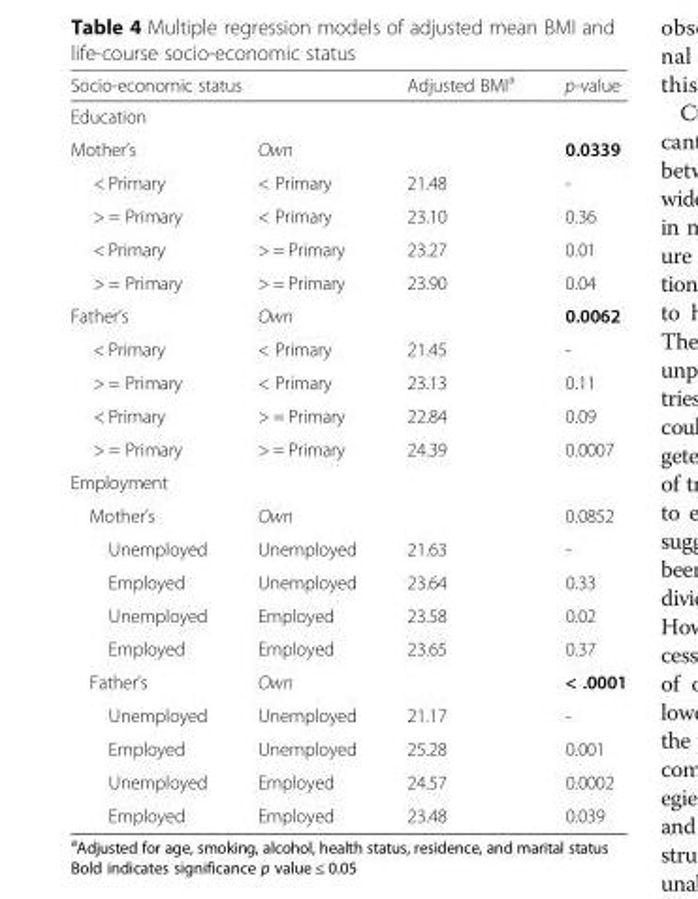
<table><thead><tr><td colspan="2">Socio-economic status</td><td>Adjusted BMI<sup>a</sup></td><td>p-value</td></tr><tr><td colspan="4">Education</td></tr><tr><td>Mother’s</td><td>Own</td><td></td><td>0.0339</td></tr></thead><tbody><tr><td>&lt; Primary</td><td>&lt; Primary</td><td>21.48</td><td>-</td></tr><tr><td>&gt; = Primary</td><td>&lt; Primary</td><td>23.10</td><td>0.36</td></tr><tr><td>&lt; Primary</td><td>&gt; = Primary</td><td>23.27</td><td>0.01</td></tr><tr><td>&gt; = Primary</td><td>&gt; = Primary</td><td>23.90</td><td>0.04</td></tr><tr><td>Father’s</td><td>Own</td><td></td><td>0.0062</td></tr><tr><td>&lt; Primary</td><td>&lt; Primary</td><td>21.45</td><td>-</td></tr><tr><td>&gt; = Primary</td><td>&lt; Primary</td><td>23.13</td><td>0.11</td></tr><tr><td>&lt; Primary</td><td>&gt; = Primary</td><td>22.84</td><td>0.09</td></tr><tr><td>&gt; = Primary</td><td>&gt; = Primary</td><td>24.39</td><td>0.0007</td></tr><tr><td colspan="4">Employment</td></tr><tr><td>Mother’s</td><td>Own</td><td></td><td>0.0852</td></tr><tr><td>Unemployed</td><td>Unemployed</td><td>21.63</td><td>-</td></tr><tr><td>Employed</td><td>Unemployed</td><td>23.64</td><td>0.33</td></tr><tr><td>Unemployed</td><td>Employed</td><td>23.58</td><td>0.02</td></tr><tr><td>Employed</td><td>Employed</td><td>23.65</td><td>0.37</td></tr><tr><td>Father’s</td><td>Own</td><td></td><td>&lt; .0001</td></tr><tr><td>Unemployed</td><td>Unemployed</td><td>21.17</td><td>-</td></tr><tr><td>Employed</td><td>Unemployed</td><td>25.28</td><td>0.001</td></tr><tr><td>Unemployed</td><td>Employed</td><td>24.57</td><td>0.0002</td></tr><tr><td>Employed</td><td>Employed</td><td>23.48</td><td>0.039</td></tr></tbody></table>